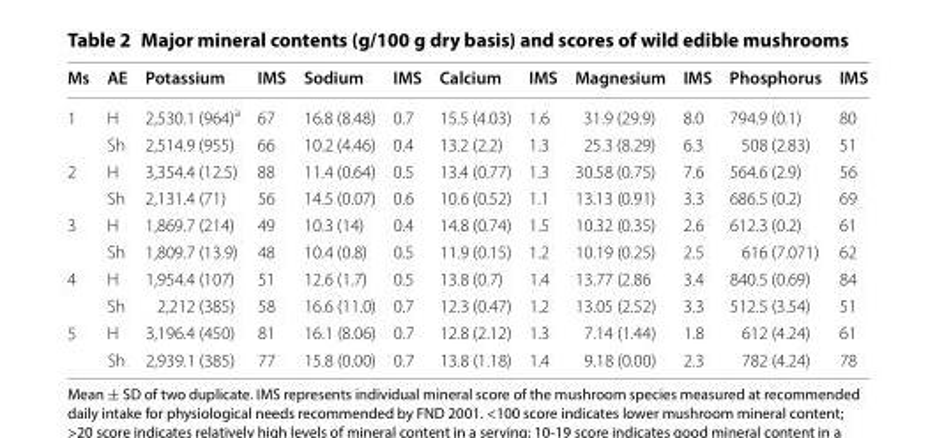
<table><thead><tr><td>Ms</td><td>AE</td><td>Potassium</td><td>IMS</td><td>Sodium</td><td>IMS</td><td>Calcium</td><td>IMS</td><td>Magnesium</td><td>IMS</td><td>Phosphorus</td><td>IMS</td></tr></thead><tbody><tr><td rowspan="2">1</td><td>H</td><td>2,530.1 (964)<sup>a</sup></td><td>67</td><td>16.8 (8.48)</td><td>0.7</td><td>15.5 (4.03)</td><td>1.6</td><td>31.9 (29.9)</td><td>8.0</td><td>794.9 (0.1)</td><td>80</td></tr><tr><td>Sh</td><td>2,514.9 (955)</td><td>66</td><td>10.2 (4.46)</td><td>0.4</td><td>13.2 (2.2)</td><td>1.3</td><td>25.3 (8.29)</td><td>6.3</td><td>508 (2.83)</td><td>51</td></tr><tr><td rowspan="2">2</td><td>H</td><td>3,354.4 (12.5)</td><td>88</td><td>11.4 (0.64)</td><td>0.5</td><td>13.4 (0.77)</td><td>1.3</td><td>30.58 (0.75)</td><td>7.6</td><td>564.6 (2.9)</td><td>56</td></tr><tr><td>Sh</td><td>2,131.4 (71)</td><td>56</td><td>14.5 (0.07)</td><td>0.6</td><td>10.6 (0.52)</td><td>1.1</td><td>13.13 (0.91)</td><td>3.3</td><td>686.5 (0.2)</td><td>69</td></tr><tr><td rowspan="2">3</td><td>H</td><td>1,869.7 (214)</td><td>49</td><td>10.3 (14)</td><td>0.4</td><td>14.8 (0.74)</td><td>1.5</td><td>10.32 (0.35)</td><td>2.6</td><td>612.3 (0.2)</td><td>61</td></tr><tr><td>Sh</td><td>1,809.7 (13.9)</td><td>48</td><td>10.4 (0.8)</td><td>0.5</td><td>11.9 (0.15)</td><td>1.2</td><td>10.19 (0.25)</td><td>2.5</td><td>616 (7.071)</td><td>62</td></tr><tr><td rowspan="2">4</td><td>H</td><td>1,954.4 (107)</td><td>51</td><td>12.6 (1.7)</td><td>0.5</td><td>13.8 (0.7)</td><td>1.4</td><td>13.77 (2.86</td><td>3.4</td><td>840.5 (0.69)</td><td>84</td></tr><tr><td>Sh</td><td>2,212 (385)</td><td>58</td><td>16.6 (11.0)</td><td>0.7</td><td>12.3 (0.47)</td><td>1.2</td><td>13.05 (2.52)</td><td>3.3</td><td>512.5 (3.54)</td><td>51</td></tr><tr><td rowspan="2">5</td><td>H</td><td>3,196.4 (450)</td><td>81</td><td>16.1 (8.06)</td><td>0.7</td><td>12.8 (2.12)</td><td>1.3</td><td>7.14 (1.44)</td><td>1.8</td><td>612 (4.24)</td><td>61</td></tr><tr><td>Sh</td><td>2,939.1 (385)</td><td>77</td><td>15.8 (0.00)</td><td>0.7</td><td>13.8 (1.18)</td><td>1.4</td><td>9.18 (0.00)</td><td>2.3</td><td>782 (4.24)</td><td>78</td></tr></tbody></table>